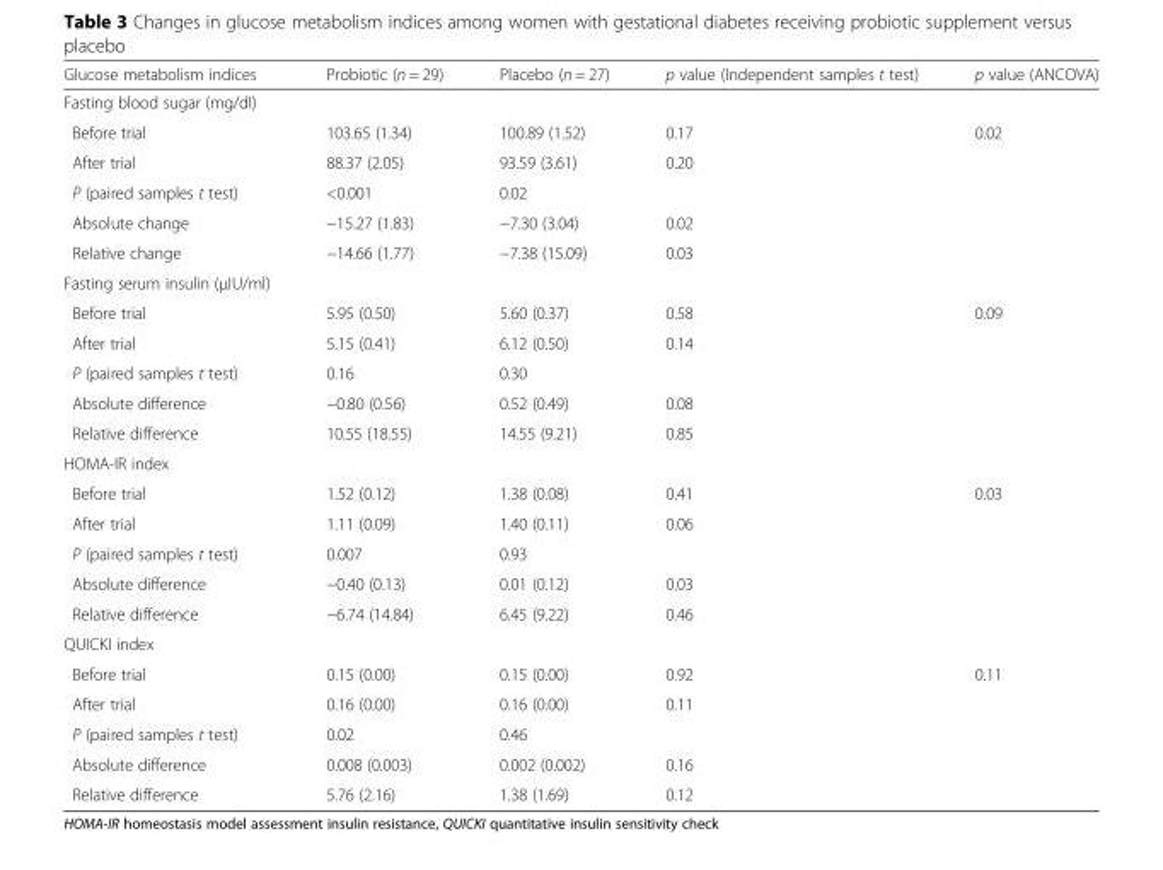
<table><thead><tr><td>Glucose metabolism indices</td><td>Probiotic (n = 29)</td><td>Placebo (n = 27)</td><td>p value (Independent samples t test)</td><td>p value (ANCOVA)</td></tr></thead><tbody><tr><td colspan="5">Fasting blood sugar (mg/dl)</td></tr><tr><td>Before trial</td><td>103.65 (1.34)</td><td>100.89 (1.52)</td><td>0.17</td><td>0.02</td></tr><tr><td>After trial</td><td>88.37 (2.05)</td><td>93.59 (3.61)</td><td>0.20</td><td></td></tr><tr><td>P (paired samples t test)</td><td>&lt;0.001</td><td>0.02</td><td></td><td></td></tr><tr><td>Absolute change</td><td>−15.27 (1.83)</td><td>−7.30 (3.04)</td><td>0.02</td><td></td></tr><tr><td>Relative change</td><td>−14.66 (1.77)</td><td>−7.38 (15.09)</td><td>0.03</td><td></td></tr><tr><td colspan="5">Fasting serum insulin (μIU/ml)</td></tr><tr><td>Before trial</td><td>5.95 (0.50)</td><td>5.60 (0.37)</td><td>0.58</td><td>0.09</td></tr><tr><td>After trial</td><td>5.15 (0.41)</td><td>6.12 (0.50)</td><td>0.14</td><td></td></tr><tr><td>P (paired samples t test)</td><td>0.16</td><td>0.30</td><td></td><td></td></tr><tr><td>Absolute difference</td><td>−0.80 (0.56)</td><td>0.52 (0.49)</td><td>0.08</td><td></td></tr><tr><td>Relative difference</td><td>10.55 (18.55)</td><td>14.55 (9.21)</td><td>0.85</td><td></td></tr><tr><td colspan="5">HOMA-IR index</td></tr><tr><td>Before trial</td><td>1.52 (0.12)</td><td>1.38 (0.08)</td><td>0.41</td><td>0.03</td></tr><tr><td>After trial</td><td>1.11 (0.09)</td><td>1.40 (0.11)</td><td>0.06</td><td></td></tr><tr><td>P (paired samples t test)</td><td>0.007</td><td>0.93</td><td></td><td></td></tr><tr><td>Absolute difference</td><td>−0.40 (0.13)</td><td>0.01 (0.12)</td><td>0.03</td><td></td></tr><tr><td>Relative difference</td><td>−6.74 (14.84)</td><td>6.45 (9.22)</td><td>0.46</td><td></td></tr><tr><td colspan="5">QUICKI index</td></tr><tr><td>Before trial</td><td>0.15 (0.00)</td><td>0.15 (0.00)</td><td>0.92</td><td>0.11</td></tr><tr><td>After trial</td><td>0.16 (0.00)</td><td>0.16 (0.00)</td><td>0.11</td><td></td></tr><tr><td>P (paired samples t test)</td><td>0.02</td><td>0.46</td><td></td><td></td></tr><tr><td>Absolute difference</td><td>0.008 (0.003)</td><td>0.002 (0.002)</td><td>0.16</td><td></td></tr><tr><td>Relative difference</td><td>5.76 (2.16)</td><td>1.38 (1.69)</td><td>0.12</td><td></td></tr></tbody></table>